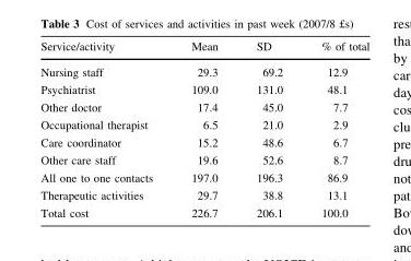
<table><thead><tr><td>Service/activity</td><td>Mean</td><td>SD</td><td>% of total</td></tr></thead><tbody><tr><td>Nursing staff</td><td>29.3</td><td>69.2</td><td>12.9</td></tr><tr><td>Psychiatrist</td><td>109.0</td><td>131.0</td><td>48.1</td></tr><tr><td>Other doctor</td><td>17.4</td><td>45.0</td><td>7.7</td></tr><tr><td>Occupational therapist</td><td>6.5</td><td>21.0</td><td>2.9</td></tr><tr><td>Care coordinator</td><td>15.2</td><td>48.6</td><td>6.7</td></tr><tr><td>Other care staff</td><td>19.6</td><td>52.6</td><td>8.7</td></tr><tr><td>All one to one contacts</td><td>197.0</td><td>196.3</td><td>86.9</td></tr><tr><td>Therapeutic activities</td><td>29.7</td><td>38.8</td><td>13.1</td></tr><tr><td>Total cost</td><td>226.7</td><td>206.1</td><td>100.0</td></tr></tbody></table>